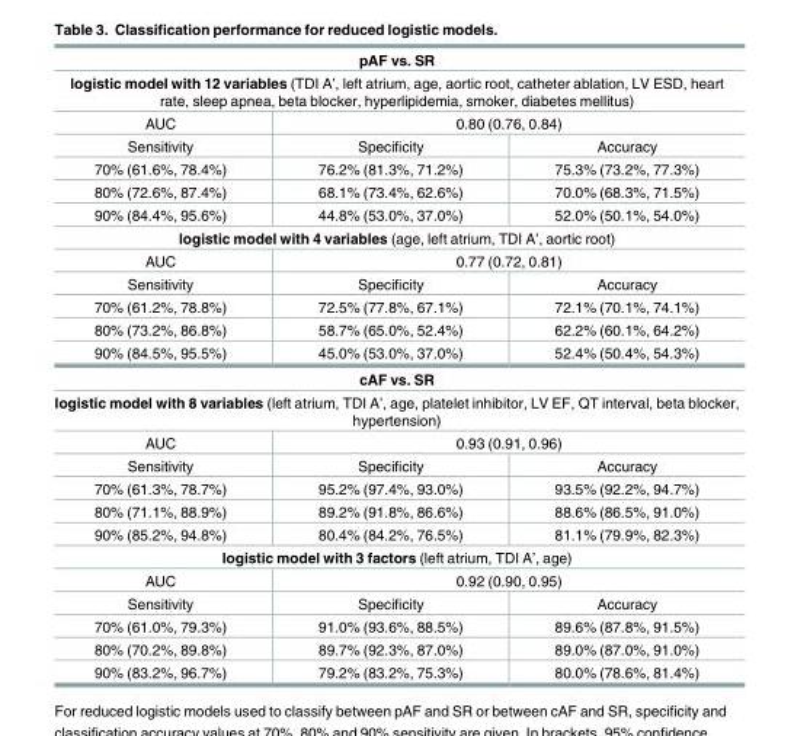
<table><tbody><tr><td colspan="3">pAF vs. SR</td></tr><tr><td colspan="3">logistic model with 12 variables (TDI A’, left atrium, age, aortic root, catheter ablation, LV ESD, heart rate, sleep apnea, beta blocker, hyperlipidemia, smoker, diabetes mellitus)</td></tr><tr><td>AUC</td><td colspan="2">0.80 (0.76, 0.84)</td></tr><tr><td>Sensitivity</td><td>Specificity</td><td>Accuracy</td></tr><tr><td>70% (61.6%, 78.4%)</td><td>76.2% (81.3%, 71.2%)</td><td>75.3% (73.2%, 77.3%)</td></tr><tr><td>80% (72.6%, 87.4%)</td><td>68.1% (73.4%, 62.6%)</td><td>70.0% (68.3%, 71.5%)</td></tr><tr><td>90% (84.4%, 95.6%)</td><td>44.8% (53.0%, 37.0%)</td><td>52.0% (50.1%, 54.0%)</td></tr><tr><td colspan="3">logistic model with 4 variables (age, left atrium, TDI A’, aortic root)</td></tr><tr><td>AUC</td><td colspan="2">0.77 (0.72, 0.81)</td></tr><tr><td>Sensitivity</td><td>Specificity</td><td>Accuracy</td></tr><tr><td>70% (61.2%, 78.8%)</td><td>72.5% (77.8%, 67.1%)</td><td>72.1% (70.1%, 74.1%)</td></tr><tr><td>80% (73.2%, 86.8%)</td><td>58.7% (65.0%, 52.4%)</td><td>62.2% (60.1%, 64.2%)</td></tr><tr><td>90% (84.5%, 95.5%)</td><td>45.0% (53.0%, 37.0%)</td><td>52.4% (50.4%, 54.3%)</td></tr><tr><td colspan="3">cAF vs. SR</td></tr><tr><td colspan="3">logistic model with 8 variables (left atrium, TDI A’, age, platelet inhibitor, LV EF, QT interval, beta blocker, hypertension)</td></tr><tr><td>AUC</td><td colspan="2">0.93 (0.91, 0.96)</td></tr><tr><td>Sensitivity</td><td>Specificity</td><td>Accuracy</td></tr><tr><td>70% (61.3%, 78.7%)</td><td>95.2% (97.4%, 93.0%)</td><td>93.5% (92.2%, 94.7%)</td></tr><tr><td>80% (71.1%, 88.9%)</td><td>89.2% (91.8%, 86.6%)</td><td>88.6% (86.5%, 91.0%)</td></tr><tr><td>90% (85.2%, 94.8%)</td><td>80.4% (84.2%, 76.5%)</td><td>81.1% (79.9%, 82.3%)</td></tr><tr><td colspan="3">logistic model with 3 factors (left atrium, TDI A’, age)</td></tr><tr><td>AUC</td><td colspan="2">0.92 (0.90, 0.95)</td></tr><tr><td>Sensitivity</td><td>Specificity</td><td>Accuracy</td></tr><tr><td>70% (61.0%, 79.3%)</td><td>91.0% (93.6%, 88.5%)</td><td>89.6% (87.8%, 91.5%)</td></tr><tr><td>80% (70.2%, 89.8%)</td><td>89.7% (92.3%, 87.0%)</td><td>89.0% (87.0%, 91.0%)</td></tr><tr><td>90% (83.2%, 96.7%)</td><td>79.2% (83.2%, 75.3%)</td><td>80.0% (78.6%, 81.4%)</td></tr></tbody></table>